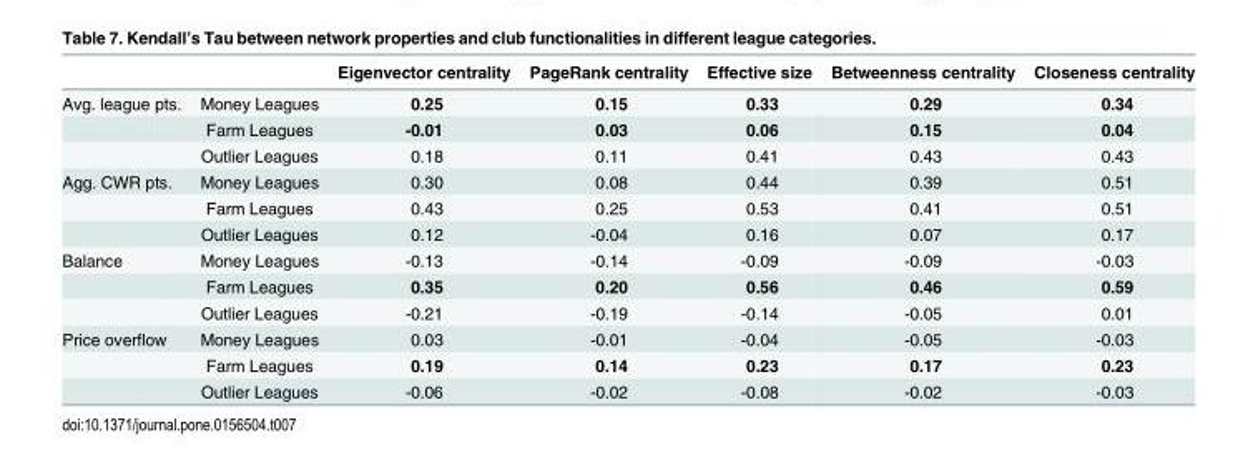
<table><thead><tr><td></td><td></td><td>Eigenvector centrality</td><td>PageRank centrality</td><td>Effective size</td><td>Betweenness centrality</td><td>Closeness centrality</td></tr></thead><tbody><tr><td rowspan="3">Avg. league pts.</td><td>Money Leagues</td><td>0.25</td><td>0.15</td><td>0.33</td><td>0.29</td><td>0.34</td></tr><tr><td>Farm Leagues</td><td>-0.01</td><td>0.03</td><td>0.06</td><td>0.15</td><td>0.04</td></tr><tr><td>Outlier Leagues</td><td>0.18</td><td>0.11</td><td>0.41</td><td>0.43</td><td>0.43</td></tr><tr><td rowspan="3">Agg. CWR pts.</td><td>Money Leagues</td><td>0.30</td><td>0.08</td><td>0.44</td><td>0.39</td><td>0.51</td></tr><tr><td>Farm Leagues</td><td>0.43</td><td>0.25</td><td>0.53</td><td>0.41</td><td>0.51</td></tr><tr><td>Outlier Leagues</td><td>0.12</td><td>-0.04</td><td>0.16</td><td>0.07</td><td>0.17</td></tr><tr><td rowspan="3">Balance</td><td>Money Leagues</td><td>-0.13</td><td>-0.14</td><td>-0.09</td><td>-0.09</td><td>-0.03</td></tr><tr><td>Farm Leagues</td><td>0.35</td><td>0.20</td><td>0.56</td><td>0.46</td><td>0.59</td></tr><tr><td>Outlier Leagues</td><td>-0.21</td><td>-0.19</td><td>-0.14</td><td>-0.05</td><td>0.01</td></tr><tr><td rowspan="3">Price overflow</td><td>Money Leagues</td><td>0.03</td><td>-0.01</td><td>-0.04</td><td>-0.05</td><td>-0.03</td></tr><tr><td>Farm Leagues</td><td>0.19</td><td>0.14</td><td>0.23</td><td>0.17</td><td>0.23</td></tr><tr><td>Outlier Leagues</td><td>-0.06</td><td>-0.02</td><td>-0.08</td><td>-0.02</td><td>-0.03</td></tr></tbody></table>